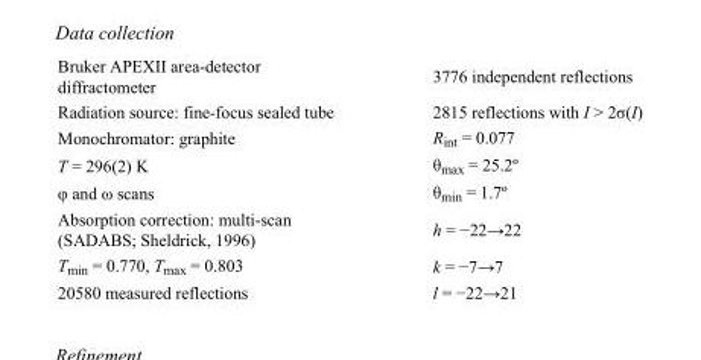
<table><tbody><tr><td>Bruker APEXII area-detector diffractometer</td><td>3776 independent reflections</td></tr><tr><td>Radiation source: fine-focus sealed tube</td><td>2815 reflections with I &gt; 2σ(I)</td></tr><tr><td>Monochromator: graphite</td><td>R<sub>int</sub> = 0.077</td></tr><tr><td>T = 296(2) K</td><td>θ<sub>max</sub> = 25.2º</td></tr><tr><td>φ and ω scans</td><td>θ<sub>min</sub> = 1.7º</td></tr><tr><td>Absorption correction: multi-scan (SADABS; Sheldrick, 1996)</td><td>h = −22→22</td></tr><tr><td>T<sub>min</sub> = 0.770, T<sub>max</sub> = 0.803</td><td>k = −7→7</td></tr><tr><td>20580 measured reflections</td><td>l = −22→21</td></tr></tbody></table>